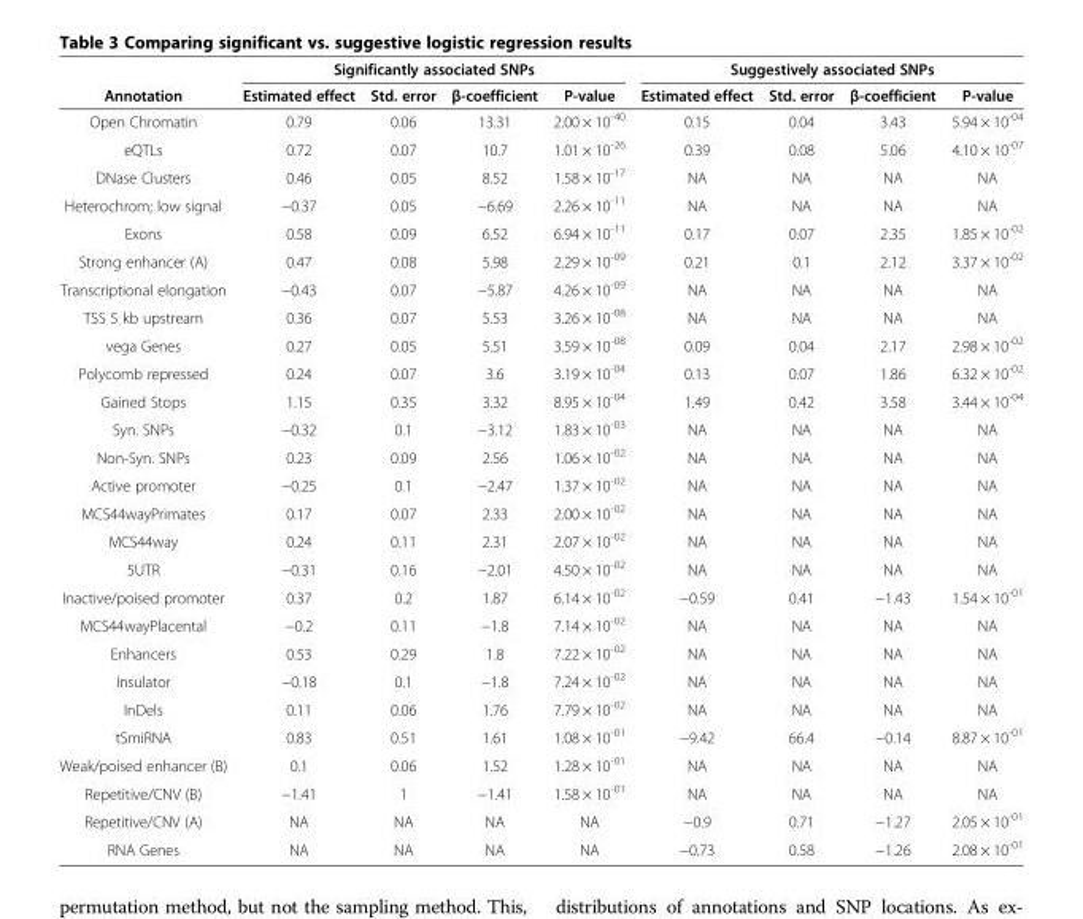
<table><thead><tr><td rowspan="2">Annotation</td><td colspan="4">Significantly associated SNPs</td><td colspan="4">Suggestively associated SNPs</td></tr><tr><td>Estimated effect</td><td>Std. error</td><td>β-coefficient</td><td>P-value</td><td>Estimated effect</td><td>Std. error</td><td>β-coefficient</td><td>P-value</td></tr></thead><tbody><tr><td>Open Chromatin</td><td>0.79</td><td>0.06</td><td>13.31</td><td>2.00 × 10<sup>-40</sup></td><td>0.15</td><td>0.04</td><td>3.43</td><td>5.94 × 10<sup>-04</sup></td></tr><tr><td>eQTLs</td><td>0.72</td><td>0.07</td><td>10.7</td><td>1.01 × 10<sup>-26</sup></td><td>0.39</td><td>0.08</td><td>5.06</td><td>4.10 × 10<sup>-07</sup></td></tr><tr><td>DNase Clusters</td><td>0.46</td><td>0.05</td><td>8.52</td><td>1.58 × 10<sup>-17</sup></td><td>NA</td><td>NA</td><td>NA</td><td>NA</td></tr><tr><td>Heterochrom; low signal</td><td>−0.37</td><td>0.05</td><td>−6.69</td><td>2.26 × 10<sup>-11</sup></td><td>NA</td><td>NA</td><td>NA</td><td>NA</td></tr><tr><td>Exons</td><td>0.58</td><td>0.09</td><td>6.52</td><td>6.94 × 10<sup>-11</sup></td><td>0.17</td><td>0.07</td><td>2.35</td><td>1.85 × 10<sup>-02</sup></td></tr><tr><td>Strong enhancer (A)</td><td>0.47</td><td>0.08</td><td>5.98</td><td>2.29 × 10<sup>-09</sup></td><td>0.21</td><td>0.1</td><td>2.12</td><td>3.37 × 10<sup>-02</sup></td></tr><tr><td>Transcriptional elongation</td><td>−0.43</td><td>0.07</td><td>−5.87</td><td>4.26 × 10<sup>-09</sup></td><td>NA</td><td>NA</td><td>NA</td><td>NA</td></tr><tr><td>TSS 5 kb upstream</td><td>0.36</td><td>0.07</td><td>5.53</td><td>3.26 × 10<sup>-08</sup></td><td>NA</td><td>NA</td><td>NA</td><td>NA</td></tr><tr><td>vega Genes</td><td>0.27</td><td>0.05</td><td>5.51</td><td>3.59 × 10<sup>-08</sup></td><td>0.09</td><td>0.04</td><td>2.17</td><td>2.98 × 10<sup>-02</sup></td></tr><tr><td>Polycomb repressed</td><td>0.24</td><td>0.07</td><td>3.6</td><td>3.19 × 10<sup>-04</sup></td><td>0.13</td><td>0.07</td><td>1.86</td><td>6.32 × 10<sup>-02</sup></td></tr><tr><td>Gained Stops</td><td>1.15</td><td>0.35</td><td>3.32</td><td>8.95 × 10<sup>-04</sup></td><td>1.49</td><td>0.42</td><td>3.58</td><td>3.44 × 10<sup>-04</sup></td></tr><tr><td>Syn. SNPs</td><td>−0.32</td><td>0.1</td><td>−3.12</td><td>1.83 × 10<sup>-03</sup></td><td>NA</td><td>NA</td><td>NA</td><td>NA</td></tr><tr><td>Non-Syn. SNPs</td><td>0.23</td><td>0.09</td><td>2.56</td><td>1.06 × 10<sup>-02</sup></td><td>NA</td><td>NA</td><td>NA</td><td>NA</td></tr><tr><td>Active promoter</td><td>−0.25</td><td>0.1</td><td>−2.47</td><td>1.37 × 10<sup>-02</sup></td><td>NA</td><td>NA</td><td>NA</td><td>NA</td></tr><tr><td>MCS44wayPrimates</td><td>0.17</td><td>0.07</td><td>2.33</td><td>2.00 × 10<sup>-02</sup></td><td>NA</td><td>NA</td><td>NA</td><td>NA</td></tr><tr><td>MCS44way</td><td>0.24</td><td>0.11</td><td>2.31</td><td>2.07 × 10<sup>-02</sup></td><td>NA</td><td>NA</td><td>NA</td><td>NA</td></tr><tr><td>5UTR</td><td>−0.31</td><td>0.16</td><td>−2.01</td><td>4.50 × 10<sup>-02</sup></td><td>NA</td><td>NA</td><td>NA</td><td>NA</td></tr><tr><td>Inactive/poised promoter</td><td>0.37</td><td>0.2</td><td>1.87</td><td>6.14 × 10<sup>-02</sup></td><td>−0.59</td><td>0.41</td><td>−1.43</td><td>1.54 × 10<sup>-01</sup></td></tr><tr><td>MCS44wayPlacental</td><td>−0.2</td><td>0.11</td><td>−1.8</td><td>7.14 × 10<sup>-02</sup></td><td>NA</td><td>NA</td><td>NA</td><td>NA</td></tr><tr><td>Enhancers</td><td>0.53</td><td>0.29</td><td>1.8</td><td>7.22 × 10<sup>-02</sup></td><td>NA</td><td>NA</td><td>NA</td><td>NA</td></tr><tr><td>Insulator</td><td>−0.18</td><td>0.1</td><td>−1.8</td><td>7.24 × 10<sup>-02</sup></td><td>NA</td><td>NA</td><td>NA</td><td>NA</td></tr><tr><td>InDels</td><td>0.11</td><td>0.06</td><td>1.76</td><td>7.79 × 10<sup>-02</sup></td><td>NA</td><td>NA</td><td>NA</td><td>NA</td></tr><tr><td>tSmiRNA</td><td>0.83</td><td>0.51</td><td>1.61</td><td>1.08 × 10<sup>-01</sup></td><td>−9.42</td><td>66.4</td><td>−0.14</td><td>8.87 × 10<sup>-01</sup></td></tr><tr><td>Weak/poised enhancer (B)</td><td>0.1</td><td>0.06</td><td>1.52</td><td>1.28 × 10<sup>-01</sup></td><td>NA</td><td>NA</td><td>NA</td><td>NA</td></tr><tr><td>Repetitive/CNV (B)</td><td>−1.41</td><td>1</td><td>−1.41</td><td>1.58 × 10<sup>-01</sup></td><td>NA</td><td>NA</td><td>NA</td><td>NA</td></tr><tr><td>Repetitive/CNV (A)</td><td>NA</td><td>NA</td><td>NA</td><td>NA</td><td>−0.9</td><td>0.71</td><td>−1.27</td><td>2.05 × 10<sup>-01</sup></td></tr><tr><td>RNA Genes</td><td>NA</td><td>NA</td><td>NA</td><td>NA</td><td>−0.73</td><td>0.58</td><td>−1.26</td><td>2.08 × 10<sup>-01</sup></td></tr></tbody></table>